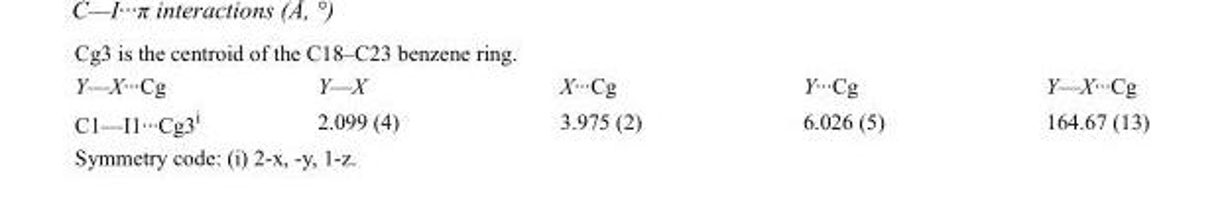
<table><tbody><tr><td>Y—X···Cg</td><td>Y—X</td><td>X···Cg</td><td>Y···Cg</td><td>Y—X···Cg</td></tr><tr><td>C1—I1···Cg3<sup>i</sup></td><td>2.099 (4)</td><td>3.975 (2)</td><td>6.026 (5)</td><td>164.67 (13)</td></tr></tbody></table>